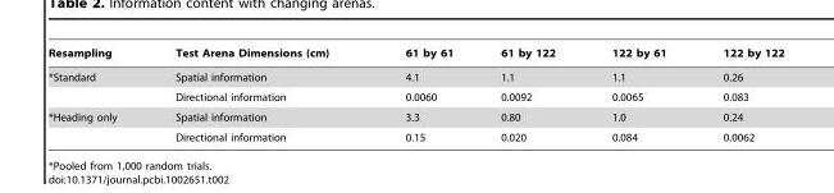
<table><thead><tr><td>Resampling</td><td>Test Arena Dimensions (cm)</td><td>61 by 61</td><td>61 by 122</td><td>122 by 61</td><td>122 by 122</td></tr></thead><tbody><tr><td rowspan="2">*Standard</td><td>Spatial information</td><td>4.1</td><td>1.1</td><td>1.1</td><td>0.26</td></tr><tr><td>Directional information</td><td>0.0060</td><td>0.0092</td><td>0.0065</td><td>0.083</td></tr><tr><td rowspan="2">*Heading only</td><td>Spatial information</td><td>3.3</td><td>0.80</td><td>1.0</td><td>0.24</td></tr><tr><td>Directional information</td><td>0.15</td><td>0.020</td><td>0.084</td><td>0.0062</td></tr></tbody></table>